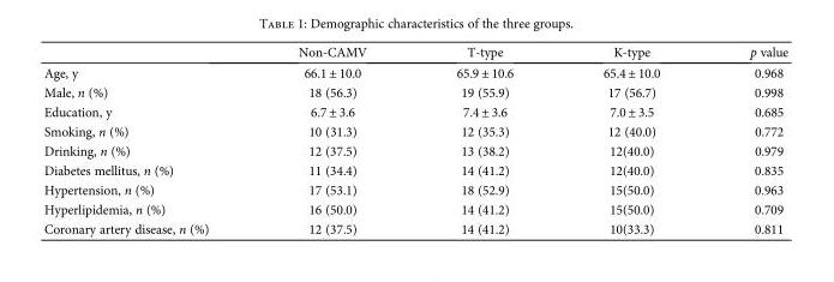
<table><thead><tr><td></td><td>Non-CAMV</td><td>T-type</td><td>K-type</td><td>p value</td></tr></thead><tbody><tr><td>Age, y</td><td>66.1 ± 10.0</td><td>65.9 ± 10.6</td><td>65.4 ± 10.0</td><td>0.968</td></tr><tr><td>Male, n (%)</td><td>18 (56.3)</td><td>19 (55.9)</td><td>17 (56.7)</td><td>0.998</td></tr><tr><td>Education, y</td><td>6.7 ± 3.6</td><td>7.4 ± 3.6</td><td>7.0 ± 3.5</td><td>0.685</td></tr><tr><td>Smoking, n (%)</td><td>10 (31.3)</td><td>12 (35.3)</td><td>12 (40.0)</td><td>0.772</td></tr><tr><td>Drinking, n (%)</td><td>12 (37.5)</td><td>13 (38.2)</td><td>12(40.0)</td><td>0.979</td></tr><tr><td>Diabetes mellitus, n (%)</td><td>11 (34.4)</td><td>14 (41.2)</td><td>12(40.0)</td><td>0.835</td></tr><tr><td>Hypertension, n (%)</td><td>17 (53.1)</td><td>18 (52.9)</td><td>15(50.0)</td><td>0.963</td></tr><tr><td>Hyperlipidemia, n (%)</td><td>16 (50.0)</td><td>14 (41.2)</td><td>15(50.0)</td><td>0.709</td></tr><tr><td>Coronary artery disease, n (%)</td><td>12 (37.5)</td><td>14 (41.2)</td><td>10(33.3)</td><td>0.811</td></tr></tbody></table>